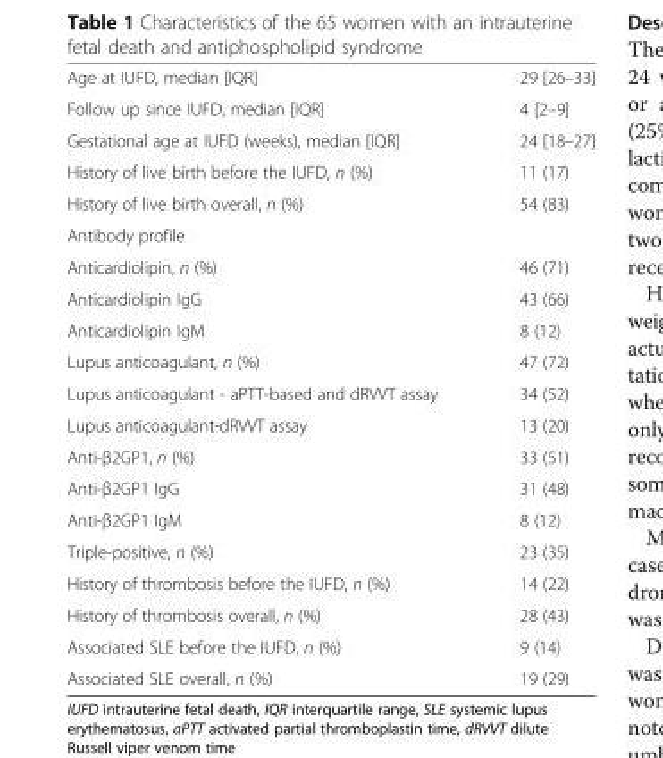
<table><tbody><tr><td>Age at IUFD, median [IQR]</td><td>29 [26–33]</td></tr><tr><td>Follow up since IUFD, median [IQR]</td><td>4 [2–9]</td></tr><tr><td>Gestational age at IUFD (weeks), median [IQR]</td><td>24 [18–27]</td></tr><tr><td>History of live birth before the IUFD, n (%)</td><td>11 (17)</td></tr><tr><td>History of live birth overall, n (%)</td><td>54 (83)</td></tr><tr><td colspan="2">Antibody profile</td></tr><tr><td>Anticardiolipin, n (%)</td><td>46 (71)</td></tr><tr><td>Anticardiolipin IgG</td><td>43 (66)</td></tr><tr><td>Anticardiolipin IgM</td><td>8 (12)</td></tr><tr><td>Lupus anticoagulant, n (%)</td><td>47 (72)</td></tr><tr><td>Lupus anticoagulant - aPTT-based and dRVVT assay</td><td>34 (52)</td></tr><tr><td>Lupus anticoagulant-dRVVT assay</td><td>13 (20)</td></tr><tr><td>Anti-β2GP1, n (%)</td><td>33 (51)</td></tr><tr><td>Anti-β2GP1 IgG</td><td>31 (48)</td></tr><tr><td>Anti-β2GP1 IgM</td><td>8 (12)</td></tr><tr><td>Triple-positive, n (%)</td><td>23 (35)</td></tr><tr><td>History of thrombosis before the IUFD, n (%)</td><td>14 (22)</td></tr><tr><td>History of thrombosis overall, n (%)</td><td>28 (43)</td></tr><tr><td>Associated SLE before the IUFD, n (%)</td><td>9 (14)</td></tr><tr><td>Associated SLE overall, n (%)</td><td>19 (29)</td></tr></tbody></table>